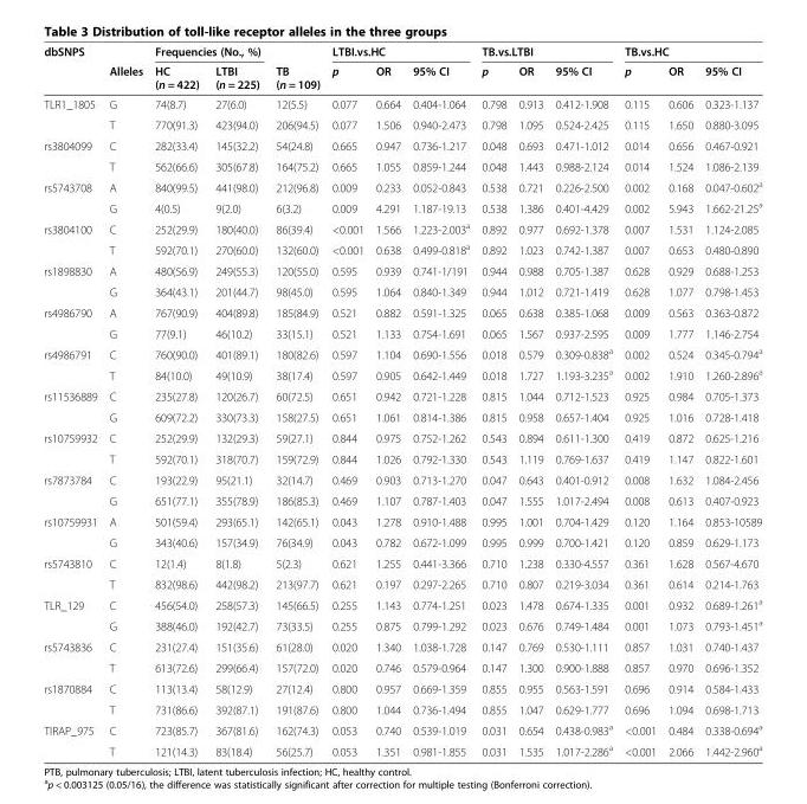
<table><thead><tr><td rowspan="2">dbSNPS</td><td rowspan="2">Alleles</td><td colspan="2">Frequencies (No., %)</td><td rowspan="2">TB (n = 109)</td><td colspan="3">LTBI.vs.HC</td><td colspan="3">TB.vs.LTBI</td><td colspan="3">TB.vs.HC</td></tr><tr><td>HC (n = 422)</td><td>LTBI (n = 225)</td><td>p</td><td>OR</td><td>95% CI</td><td>p</td><td>OR</td><td>95% CI</td><td>p</td><td>OR</td><td>95% CI</td></tr></thead><tbody><tr><td rowspan="2">TLR1_1805</td><td>G</td><td>74(8.7)</td><td>27(6.0)</td><td>12(5.5)</td><td>0.077</td><td>0.664</td><td>0.404-1.064</td><td>0.798</td><td>0.913</td><td>0.412-1.908</td><td>0.115</td><td>0.606</td><td>0.323-1.137</td></tr><tr><td>T</td><td>770(91.3)</td><td>423(94.0)</td><td>206(94.5)</td><td>0.077</td><td>1.506</td><td>0.940-2.473</td><td>0.798</td><td>1.095</td><td>0.524-2.425</td><td>0.115</td><td>1.650</td><td>0.880-3.095</td></tr><tr><td rowspan="2">rs3804099</td><td>C</td><td>282(33.4)</td><td>145(32.2)</td><td>54(24.8)</td><td>0.665</td><td>0.947</td><td>0.736-1.217</td><td>0.048</td><td>0.693</td><td>0.471-1.012</td><td>0.014</td><td>0.656</td><td>0.467-0.921</td></tr><tr><td>T</td><td>562(66.6)</td><td>305(67.8)</td><td>164(75.2)</td><td>0.665</td><td>1.055</td><td>0.859-1.244</td><td>0.048</td><td>1.443</td><td>0.988-2.124</td><td>0.014</td><td>1.524</td><td>1.086-2.139</td></tr><tr><td rowspan="2">rs5743708</td><td>A</td><td>840(99.5)</td><td>441(98.0)</td><td>212(96.8)</td><td>0.009</td><td>0.233</td><td>0.052-0.843</td><td>0.538</td><td>0.721</td><td>0.226-2.500</td><td>0.002</td><td>0.168</td><td>0.047-0.602<sup>a</sup></td></tr><tr><td>G</td><td>4(0.5)</td><td>9(2.0)</td><td>6(3.2)</td><td>0.009</td><td>4.291</td><td>1.187-19.13</td><td>0.538</td><td>1.386</td><td>0.401-4.429</td><td>0.002</td><td>5.943</td><td>1.662-21.25<sup>a</sup></td></tr><tr><td rowspan="2">rs3804100</td><td>C</td><td>252(29.9)</td><td>180(40.0)</td><td>86(39.4)</td><td>&lt;0.001</td><td>1.566</td><td>1.223-2.003<sup>a</sup></td><td>0.892</td><td>0.977</td><td>0.692-1.378</td><td>0.007</td><td>1.531</td><td>1.124-2.085</td></tr><tr><td>T</td><td>592(70.1)</td><td>270(60.0)</td><td>132(60.0)</td><td>&lt;0.001</td><td>0.638</td><td>0.499-0.818<sup>a</sup></td><td>0.892</td><td>1.023</td><td>0.742-1.387</td><td>0.007</td><td>0.653</td><td>0.480-0.890</td></tr><tr><td rowspan="2">rs1898830</td><td>A</td><td>480(56.9)</td><td>249(55.3)</td><td>120(55.0)</td><td>0.595</td><td>0.939</td><td>0.741-1/191</td><td>0.944</td><td>0.988</td><td>0.705-1.387</td><td>0.628</td><td>0.929</td><td>0.688-1.253</td></tr><tr><td>G</td><td>364(43.1)</td><td>201(44.7)</td><td>98(45.0)</td><td>0.595</td><td>1.064</td><td>0.840-1.349</td><td>0.944</td><td>1.012</td><td>0.721-1.419</td><td>0.628</td><td>1.077</td><td>0.798-1.453</td></tr><tr><td rowspan="2">rs4986790</td><td>A</td><td>767(90.9)</td><td>404(89.8)</td><td>185(84.9)</td><td>0.521</td><td>0.882</td><td>0.591-1.325</td><td>0.065</td><td>0.638</td><td>0.385-1.068</td><td>0.009</td><td>0.563</td><td>0.363-0.872</td></tr><tr><td>G</td><td>77(9.1)</td><td>46(10.2)</td><td>33(15.1)</td><td>0.521</td><td>1.133</td><td>0.754-1.691</td><td>0.065</td><td>1.567</td><td>0.937-2.595</td><td>0.009</td><td>1.777</td><td>1.146-2.754</td></tr><tr><td rowspan="2">rs4986791</td><td>C</td><td>760(90.0)</td><td>401(89.1)</td><td>180(82.6)</td><td>0.597</td><td>1.104</td><td>0.690-1.556</td><td>0.018</td><td>0.579</td><td>0.309-0.838<sup>a</sup></td><td>0.002</td><td>0.524</td><td>0.345-0.794<sup>a</sup></td></tr><tr><td>T</td><td>84(10.0)</td><td>49(10.9)</td><td>38(17.4)</td><td>0.597</td><td>0.905</td><td>0.642-1.449</td><td>0.018</td><td>1.727</td><td>1.193-3.235<sup>a</sup></td><td>0.002</td><td>1.910</td><td>1.260-2.896<sup>a</sup></td></tr><tr><td rowspan="2">rs11536889</td><td>C</td><td>235(27.8)</td><td>120(26.7)</td><td>60(72.5)</td><td>0.651</td><td>0.942</td><td>0.721-1.228</td><td>0.815</td><td>1.044</td><td>0.712-1.523</td><td>0.925</td><td>0.984</td><td>0.705-1.373</td></tr><tr><td>G</td><td>609(72.2)</td><td>330(73.3)</td><td>158(27.5)</td><td>0.651</td><td>1.061</td><td>0.814-1.386</td><td>0.815</td><td>0.958</td><td>0.657-1.404</td><td>0.925</td><td>1.016</td><td>0.728-1.418</td></tr><tr><td rowspan="2">rs10759932</td><td>C</td><td>252(29.9)</td><td>132(29.3)</td><td>59(27.1)</td><td>0.844</td><td>0.975</td><td>0.752-1.262</td><td>0.543</td><td>0.894</td><td>0.611-1.300</td><td>0.419</td><td>0.872</td><td>0.625-1.216</td></tr><tr><td>T</td><td>592(70.1)</td><td>318(70.7)</td><td>159(72.9)</td><td>0.844</td><td>1.026</td><td>0.792-1.330</td><td>0.543</td><td>1.119</td><td>0.769-1.637</td><td>0.419</td><td>1.147</td><td>0.822-1.601</td></tr><tr><td rowspan="2">rs7873784</td><td>C</td><td>193(22.9)</td><td>95(21.1)</td><td>32(14.7)</td><td>0.469</td><td>0.903</td><td>0.713-1.270</td><td>0.047</td><td>0.643</td><td>0.401-0.912</td><td>0.008</td><td>1.632</td><td>1.084-2.456</td></tr><tr><td>G</td><td>651(77.1)</td><td>355(78.9)</td><td>186(85.3)</td><td>0.469</td><td>1.107</td><td>0.787-1.403</td><td>0.047</td><td>1.555</td><td>1.017-2.494</td><td>0.008</td><td>0.613</td><td>0.407-0.923</td></tr><tr><td rowspan="2">rs10759931</td><td>A</td><td>501(59.4)</td><td>293(65.1)</td><td>142(65.1)</td><td>0.043</td><td>1.278</td><td>0.910-1.488</td><td>0.995</td><td>1.001</td><td>0.704-1.429</td><td>0.120</td><td>1.164</td><td>0.853-10589</td></tr><tr><td>G</td><td>343(40.6)</td><td>157(34.9)</td><td>76(34.9)</td><td>0.043</td><td>0.782</td><td>0.672-1.099</td><td>0.995</td><td>0.999</td><td>0.700-1.421</td><td>0.120</td><td>0.859</td><td>0.629-1.173</td></tr><tr><td rowspan="2">rs5743810</td><td>C</td><td>12(1.4)</td><td>8(1.8)</td><td>5(2.3)</td><td>0.621</td><td>1.255</td><td>0.441-3.366</td><td>0.710</td><td>1.238</td><td>0.330-4.557</td><td>0.361</td><td>1.628</td><td>0.567-4.670</td></tr><tr><td>T</td><td>832(98.6)</td><td>442(98.2)</td><td>213(97.7)</td><td>0.621</td><td>0.197</td><td>0.297-2.265</td><td>0.710</td><td>0.807</td><td>0.219-3.034</td><td>0.361</td><td>0.614</td><td>0.214-1.763</td></tr><tr><td rowspan="2">TLR_129</td><td>C</td><td>456(54.0)</td><td>258(57.3)</td><td>145(66.5)</td><td>0.255</td><td>1.143</td><td>0.774-1.251</td><td>0.023</td><td>1.478</td><td>0.674-1.335</td><td>0.001</td><td>0.932</td><td>0.689-1.261<sup>a</sup></td></tr><tr><td>G</td><td>388(46.0)</td><td>192(42.7)</td><td>73(33.5)</td><td>0.255</td><td>0.875</td><td>0.799-1.292</td><td>0.023</td><td>0.676</td><td>0.749-1.484</td><td>0.001</td><td>1.073</td><td>0.793-1.451<sup>a</sup></td></tr><tr><td rowspan="2">rs5743836</td><td>C</td><td>231(27.4)</td><td>151(35.6)</td><td>61(28.0)</td><td>0.020</td><td>1.340</td><td>1.038-1.728</td><td>0.147</td><td>0.769</td><td>0.530-1.111</td><td>0.857</td><td>1.031</td><td>0.740-1.437</td></tr><tr><td>T</td><td>613(72.6)</td><td>299(66.4)</td><td>157(72.0)</td><td>0.020</td><td>0.746</td><td>0.579-0.964</td><td>0.147</td><td>1.300</td><td>0.900-1.888</td><td>0.857</td><td>0.970</td><td>0.696-1.352</td></tr><tr><td rowspan="2">rs1870884</td><td>C</td><td>113(13.4)</td><td>58(12.9)</td><td>27(12.4)</td><td>0.800</td><td>0.957</td><td>0.669-1.359</td><td>0.855</td><td>0.955</td><td>0.563-1.591</td><td>0.696</td><td>0.914</td><td>0.584-1.433</td></tr><tr><td>T</td><td>731(86.6)</td><td>392(87.1)</td><td>191(87.6)</td><td>0.800</td><td>1.044</td><td>0.736-1.494</td><td>0.855</td><td>1.047</td><td>0.629-1.777</td><td>0.696</td><td>1.094</td><td>0.698-1.713</td></tr><tr><td rowspan="2">TIRAP_975</td><td>C</td><td>723(85.7)</td><td>367(81.6)</td><td>162(74.3)</td><td>0.053</td><td>0.740</td><td>0.539-1.019</td><td>0.031</td><td>0.654</td><td>0.438-0.983<sup>a</sup></td><td>&lt;0.001</td><td>0.484</td><td>0.338-0.694<sup>a</sup></td></tr><tr><td>T</td><td>121(14.3)</td><td>83(18.4)</td><td>56(25.7)</td><td>0.053</td><td>1.351</td><td>0.981-1.855</td><td>0.031</td><td>1.535</td><td>1.017-2.286<sup>a</sup></td><td>&lt;0.001</td><td>2.066</td><td>1.442-2.960<sup>a</sup></td></tr></tbody></table>